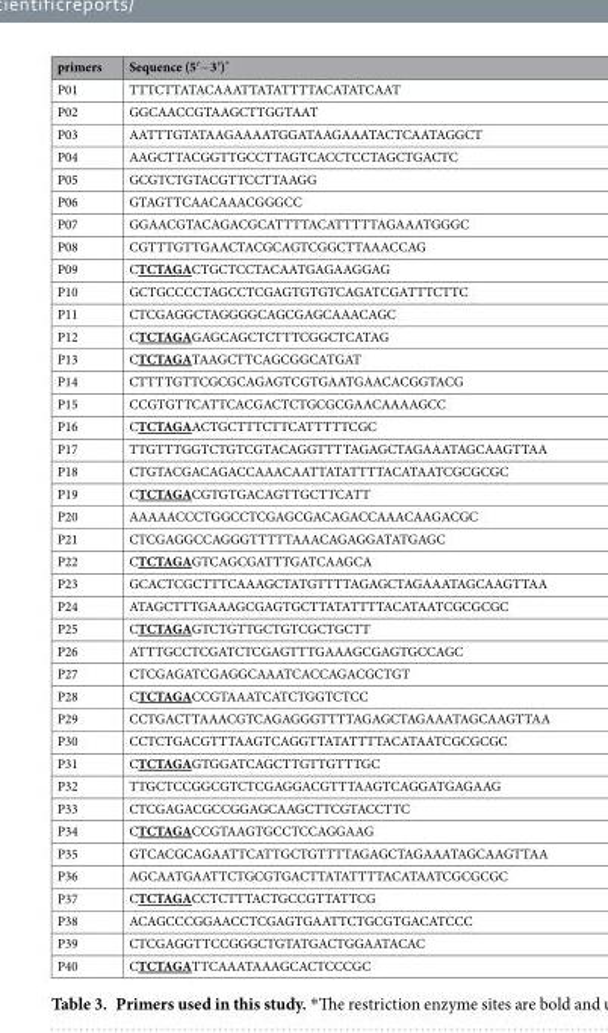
<table><thead><tr><td>primers</td><td>Sequence (5′ − 3′ )*</td></tr></thead><tbody><tr><td>P01</td><td>TTTCTTATACAAATTATATTTTACATATCAAT</td></tr><tr><td>P02</td><td>GGCAACCGTAAGCTTGGTAAT</td></tr><tr><td>P03</td><td>AATTTGTATAAGAAAATGGATAAGAAATACTCAATAGGCT</td></tr><tr><td>P04</td><td>AAGCTTACGGTTGCCTTAGTCACCTCCTAGCTGACTC</td></tr><tr><td>P05</td><td>GCGTCTGTACGTTCCTTAAGG</td></tr><tr><td>P06</td><td>GTAGTTCAACAAACGGGCC</td></tr><tr><td>P07</td><td>GGAACGTACAGACGCATTTTACATTTTTAGAAATGGGC</td></tr><tr><td>P08</td><td>CGTTTGTTGAACTACGCAGTCGGCTTAAACCAG</td></tr><tr><td>P09</td><td>CTCTAGACTGCTCCTACAATGAGAAGGAG</td></tr><tr><td>P10</td><td>GCTGCCCCTAGCCTCGAGTGTGTCAGATCGATTTCTTC</td></tr><tr><td>P11</td><td>CTCGAGGCTAGGGGCAGCGAGCAAACAGC</td></tr><tr><td>P12</td><td>CTCTAGAGAGCAGCTCTTTCGGCTCATAG</td></tr><tr><td>P13</td><td>CTCTAGATAAGCTTCAGCGGCATGAT</td></tr><tr><td>P14</td><td>CTTTTGTTCGCGCAGAGTCGTGAATGAACACGGTACG</td></tr><tr><td>P15</td><td>CCGTGTTCATTCACGACTCTGCGCGAACAAAAGCC</td></tr><tr><td>P16</td><td>CTCTAGAACTGCTTTCTTCATTTTTCGC</td></tr><tr><td>P17</td><td>TTGTTTGGTCTGTCGTACAGGTTTTAGAGCTAGAAATAGCAAGTTAA</td></tr><tr><td>P18</td><td>CTGTACGACAGACCAAACAATTATATTTTACATAATCGCGCGC</td></tr><tr><td>P19</td><td>CTCTAGACGTGTGACAGTTGCTTCATT</td></tr><tr><td>P20</td><td>AAAAACCCTGGCCTCGAGCGACAGACCAAACAAGACGC</td></tr><tr><td>P21</td><td>CTCGAGGCCAGGGTTTTTAAACAGAGGATATGAGC</td></tr><tr><td>P22</td><td>CTCTAGAGTCAGCGATTTGATCAAGCA</td></tr><tr><td>P23</td><td>GCACTCGCTTTCAAAGCTATGTTTTAGAGCTAGAAATAGCAAGTTAA</td></tr><tr><td>P24</td><td>ATAGCTTTGAAAGCGAGTGCTTATATTTTACATAATCGCGCGC</td></tr><tr><td>P25</td><td>CTCTAGAGTCTGTTGCTGTCGCTGCTT</td></tr><tr><td>P26</td><td>ATTTGCCTCGATCTCGAGTTTGAAAGCGAGTGCCAGC</td></tr><tr><td>P27</td><td>CTCGAGATCGAGGCAAATCACCAGACGCTGT</td></tr><tr><td>P28</td><td>CTCTAGACCGTAAATCATCTGGTCTCC</td></tr><tr><td>P29</td><td>CCTGACTTAAACGTCAGAGGGTTTTAGAGCTAGAAATAGCAAGTTAA</td></tr><tr><td>P30</td><td>CCTCTGACGTTTAAGTCAGGTTATATTTTACATAATCGCGCGC</td></tr><tr><td>P31</td><td>CTCTAGAGTGGATCAGCTTGTTGTTTGC</td></tr><tr><td>P32</td><td>TTGCTCCGGCGTCTCGAGGACGTTTAAGTCAGGATGAGAAG</td></tr><tr><td>P33</td><td>CTCGAGACGCCGGAGCAAGCTTCGTACCTTC</td></tr><tr><td>P34</td><td>CTCTAGACCGTAAGTGCCTCCAGGAAG</td></tr><tr><td>P35</td><td>GTCACGCAGAATTCATTGCTGTTTTAGAGCTAGAAATAGCAAGTTAA</td></tr><tr><td>P36</td><td>AGCAATGAATTCTGCGTGACTTATATTTTACATAATCGCGCGC</td></tr><tr><td>P37</td><td>CTCTAGACCTCTTTACTGCCGTTATTCG</td></tr><tr><td>P38</td><td>ACAGCCCGGAACCTCGAGTGAATTCTGCGTGACATCCC</td></tr><tr><td>P39</td><td>CTCGAGGTTCCGGGCTGTATGACTGGAATACAC</td></tr><tr><td>P40</td><td>CTCTAGATTCAAATAAAGCACTCCCGC</td></tr></tbody></table>